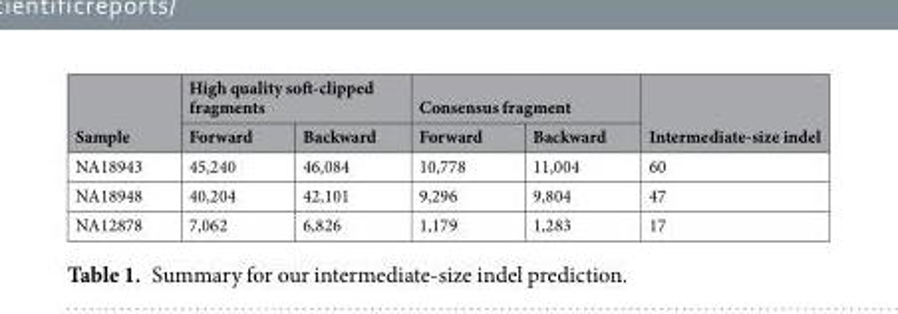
<table><thead><tr><td rowspan="2">Sample</td><td colspan="2">High quality soft-clipped fragments</td><td colspan="2">Consensus fragment</td><td rowspan="2">Intermediate-size indel</td></tr><tr><td>Forward</td><td>Backward</td><td>Forward</td><td>Backward</td></tr></thead><tbody><tr><td>NA18943</td><td>45,240</td><td>46,084</td><td>10,778</td><td>11,004</td><td>60</td></tr><tr><td>NA18948</td><td>40,204</td><td>42,101</td><td>9,296</td><td>9,804</td><td>47</td></tr><tr><td>NA12878</td><td>7,062</td><td>6,826</td><td>1,179</td><td>1,283</td><td>17</td></tr></tbody></table>